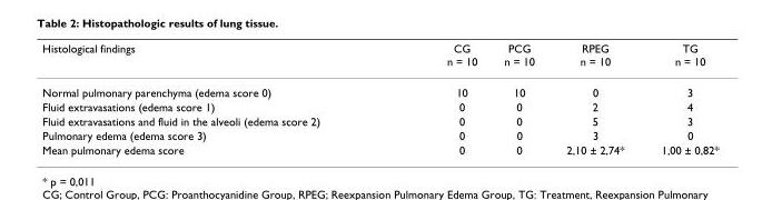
<table><thead><tr><td>Histological findings</td><td>CG n = 10</td><td>PCG n = 10</td><td>RPEG n = 10</td><td>TG n = 10</td></tr></thead><tbody><tr><td>Normal pulmonary parenchyma (edema score 0)</td><td>10</td><td>10</td><td>0</td><td>3</td></tr><tr><td>Fluid extravasations (edema score 1)</td><td>0</td><td>0</td><td>2</td><td>4</td></tr><tr><td>Fluid extravasations and fluid in the alveoli (edema score 2)</td><td>0</td><td>0</td><td>5</td><td>3</td></tr><tr><td>Pulmonary edema (edema score 3)</td><td>0</td><td>0</td><td>3</td><td>0</td></tr><tr><td>Mean pulmonary edema score</td><td>0</td><td>0</td><td>2,10 ± 2,74*</td><td>1,00 ± 0,82*</td></tr></tbody></table>